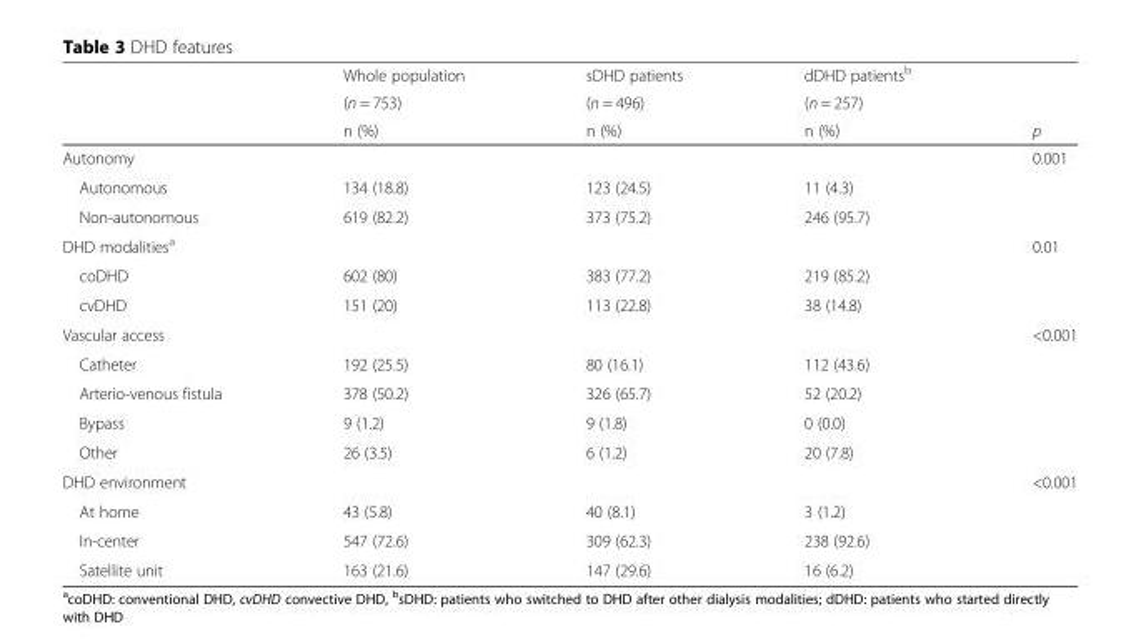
<table><thead><tr><td rowspan="3"></td><td rowspan="3">Whole population (n = 753) n (%)</td><td rowspan="3">sDHD patients (n = 496) n (%)</td><td rowspan="3">dDHD patients<sup>b</sup> (n = 257) n (%)</td><td rowspan="3">p</td></tr><tr></tr><tr></tr></thead><tbody><tr><td>Autonomy</td><td></td><td></td><td></td><td>0.001</td></tr><tr><td>Autonomous</td><td>134 (18.8)</td><td>123 (24.5)</td><td>11 (4.3)</td><td></td></tr><tr><td>Non-autonomous</td><td>619 (82.2)</td><td>373 (75.2)</td><td>246 (95.7)</td><td></td></tr><tr><td>DHD modalities<sup>a</sup></td><td></td><td></td><td></td><td>0.01</td></tr><tr><td>coDHD</td><td>602 (80)</td><td>383 (77.2)</td><td>219 (85.2)</td><td></td></tr><tr><td>cvDHD</td><td>151 (20)</td><td>113 (22.8)</td><td>38 (14.8)</td><td></td></tr><tr><td>Vascular access</td><td></td><td></td><td></td><td>&lt;0.001</td></tr><tr><td>Catheter</td><td>192 (25.5)</td><td>80 (16.1)</td><td>112 (43.6)</td><td></td></tr><tr><td>Arterio-venous fistula</td><td>378 (50.2)</td><td>326 (65.7)</td><td>52 (20.2)</td><td></td></tr><tr><td>Bypass</td><td>9 (1.2)</td><td>9 (1.8)</td><td>0 (0.0)</td><td></td></tr><tr><td>Other</td><td>26 (3.5)</td><td>6 (1.2)</td><td>20 (7.8)</td><td></td></tr><tr><td>DHD environment</td><td></td><td></td><td></td><td>&lt;0.001</td></tr><tr><td>At home</td><td>43 (5.8)</td><td>40 (8.1)</td><td>3 (1.2)</td><td></td></tr><tr><td>In-center</td><td>547 (72.6)</td><td>309 (62.3)</td><td>238 (92.6)</td><td></td></tr><tr><td>Satellite unit</td><td>163 (21.6)</td><td>147 (29.6)</td><td>16 (6.2)</td><td></td></tr></tbody></table>